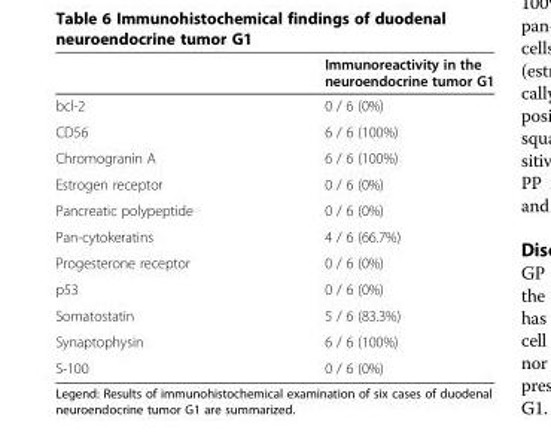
<table><thead><tr><td></td><td>Immunoreactivity in the neuroendocrine tumor G1</td></tr></thead><tbody><tr><td>bcl-2</td><td>0 / 6 (0%)</td></tr><tr><td>CD56</td><td>6 / 6 (100%)</td></tr><tr><td>Chromogranin A</td><td>6 / 6 (100%)</td></tr><tr><td>Estrogen receptor</td><td>0 / 6 (0%)</td></tr><tr><td>Pancreatic polypeptide</td><td>0 / 6 (0%)</td></tr><tr><td>Pan-cytokeratins</td><td>4 / 6 (66.7%)</td></tr><tr><td>Progesterone receptor</td><td>0 / 6 (0%)</td></tr><tr><td>p53</td><td>0 / 6 (0%)</td></tr><tr><td>Somatostatin</td><td>5 / 6 (83.3%)</td></tr><tr><td>Synaptophysin</td><td>6 / 6 (100%)</td></tr><tr><td>S-100</td><td>0 / 6 (0%)</td></tr></tbody></table>